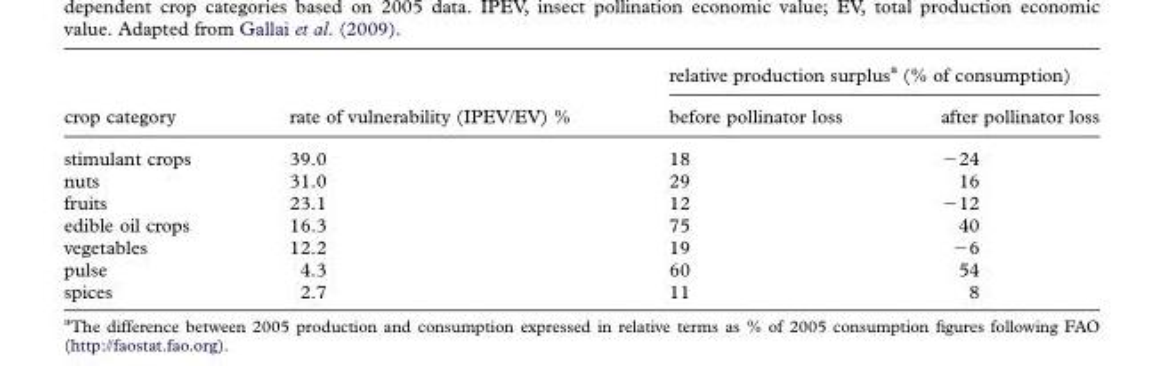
<table><thead><tr><td rowspan="2">crop category</td><td rowspan="2">rate of vulnerability (IPEV/EV) %</td><td colspan="2">relative production surplus<sup>a</sup> (% of consumption)</td></tr><tr><td>before pollinator loss</td><td>after pollinator loss</td></tr></thead><tbody><tr><td>stimulant crops</td><td>39.0</td><td>18</td><td>−24</td></tr><tr><td>nuts</td><td>31.0</td><td>29</td><td>16</td></tr><tr><td>fruits</td><td>23.1</td><td>12</td><td>−12</td></tr><tr><td>edible oil crops</td><td>16.3</td><td>75</td><td>40</td></tr><tr><td>vegetables</td><td>12.2</td><td>19</td><td>−6</td></tr><tr><td>pulse</td><td>4.3</td><td>60</td><td>54</td></tr><tr><td>spices</td><td>2.7</td><td>11</td><td>8</td></tr></tbody></table>